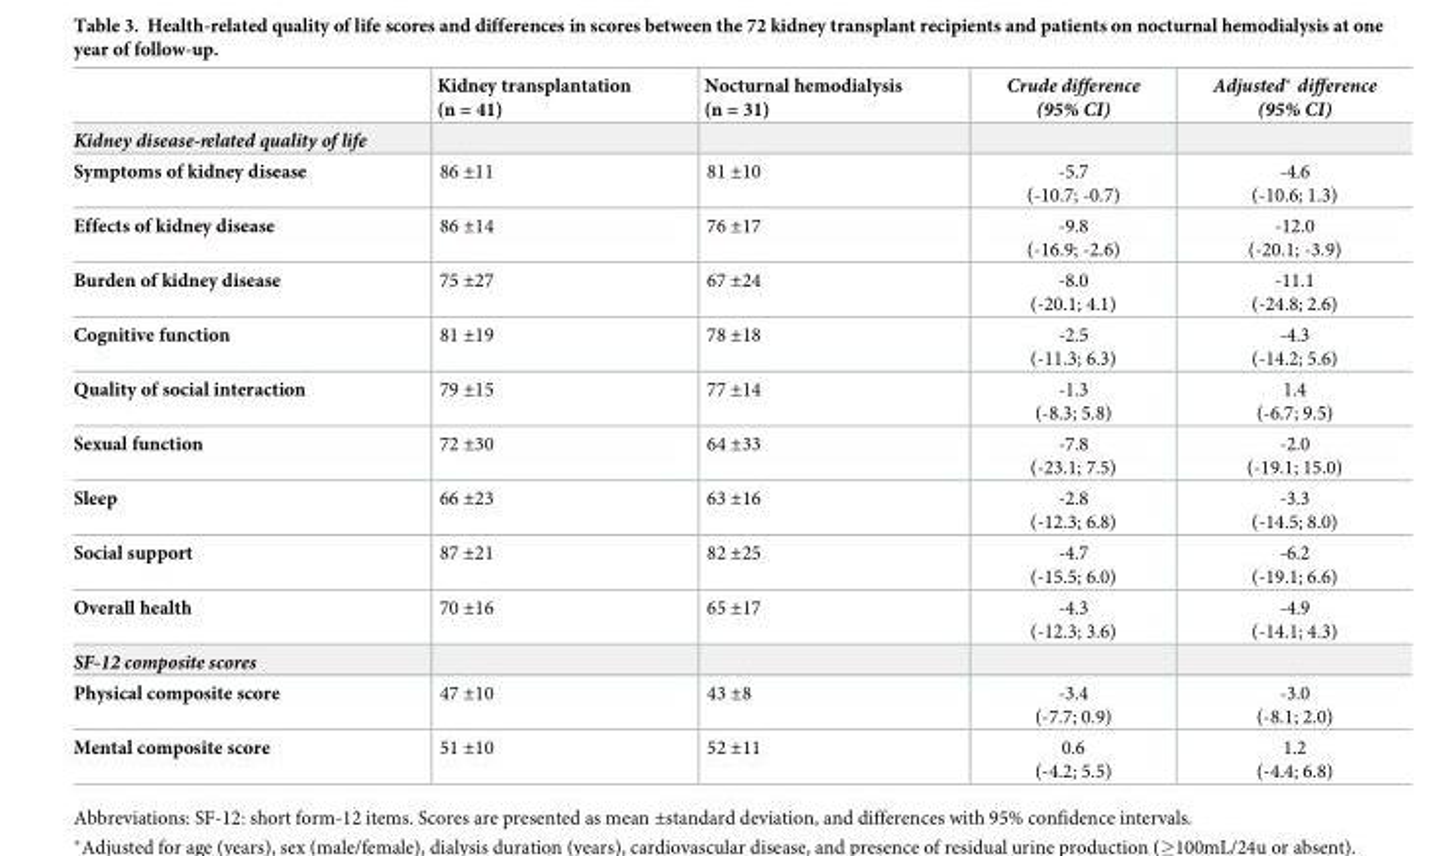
<table><thead><tr><td></td><td>Kidney transplantation (n = 41)</td><td>Nocturnal hemodialysis (n = 31)</td><td>Crude difference (95% CI)</td><td>Adjusted* difference (95% CI)</td></tr></thead><tbody><tr><td colspan="5">Kidney disease-related quality of life</td></tr><tr><td>Symptoms of kidney disease</td><td>86 ±11</td><td>81 ±10</td><td>-5.7 (-10.7; -0.7)</td><td>-4.6 (-10.6; 1.3)</td></tr><tr><td>Effects of kidney disease</td><td>86 ±14</td><td>76 ±17</td><td>-9.8 (-16.9; -2.6)</td><td>-12.0 (-20.1; -3.9)</td></tr><tr><td>Burden of kidney disease</td><td>75 ±27</td><td>67 ±24</td><td>-8.0 (-20.1; 4.1)</td><td>-11.1 (-24.8; 2.6)</td></tr><tr><td>Cognitive function</td><td>81 ±19</td><td>78 ±18</td><td>-2.5 (-11.3; 6.3)</td><td>-4.3 (-14.2; 5.6)</td></tr><tr><td>Quality of social interaction</td><td>79 ±15</td><td>77 ±14</td><td>-1.3 (-8.3; 5.8)</td><td>1.4 (-6.7; 9.5)</td></tr><tr><td>Sexual function</td><td>72 ±30</td><td>64 ±33</td><td>-7.8 (-23.1; 7.5)</td><td>-2.0 (-19.1; 15.0)</td></tr><tr><td>Sleep</td><td>66 ±23</td><td>63 ±16</td><td>-2.8 (-12.3; 6.8)</td><td>-3.3 (-14.5; 8.0)</td></tr><tr><td>Social support</td><td>87 ±21</td><td>82 ±25</td><td>-4.7 (-15.5; 6.0)</td><td>-6.2 (-19.1; 6.6)</td></tr><tr><td>Overall health</td><td>70 ±16</td><td>65 ±17</td><td>-4.3 (-12.3; 3.6)</td><td>-4.9 (-14.1; 4.3)</td></tr><tr><td colspan="5">SF-12 composite scores</td></tr><tr><td>Physical composite score</td><td>47 ±10</td><td>43 ±8</td><td>-3.4 (-7.7; 0.9)</td><td>-3.0 (-8.1; 2.0)</td></tr><tr><td>Mental composite score</td><td>51 ±10</td><td>52 ±11</td><td>0.6 (-4.2; 5.5)</td><td>1.2 (-4.4; 6.8)</td></tr></tbody></table>